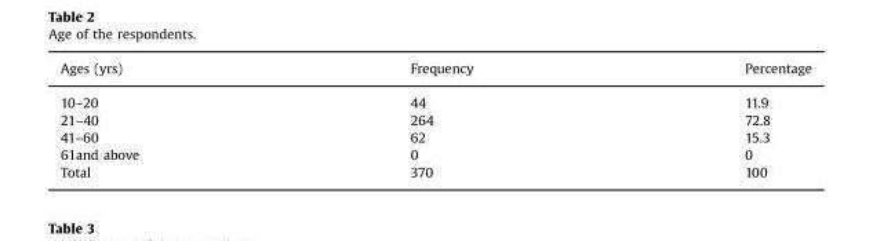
<table><thead><tr><td>Ages (yrs)</td><td>Frequency</td><td>Percentage</td></tr></thead><tbody><tr><td>10–20</td><td>44</td><td>11.9</td></tr><tr><td>21–40</td><td>264</td><td>72.8</td></tr><tr><td>41–60</td><td>62</td><td>15.3</td></tr><tr><td>61and above</td><td>0</td><td>0</td></tr><tr><td>Total</td><td>370</td><td>100</td></tr></tbody></table>